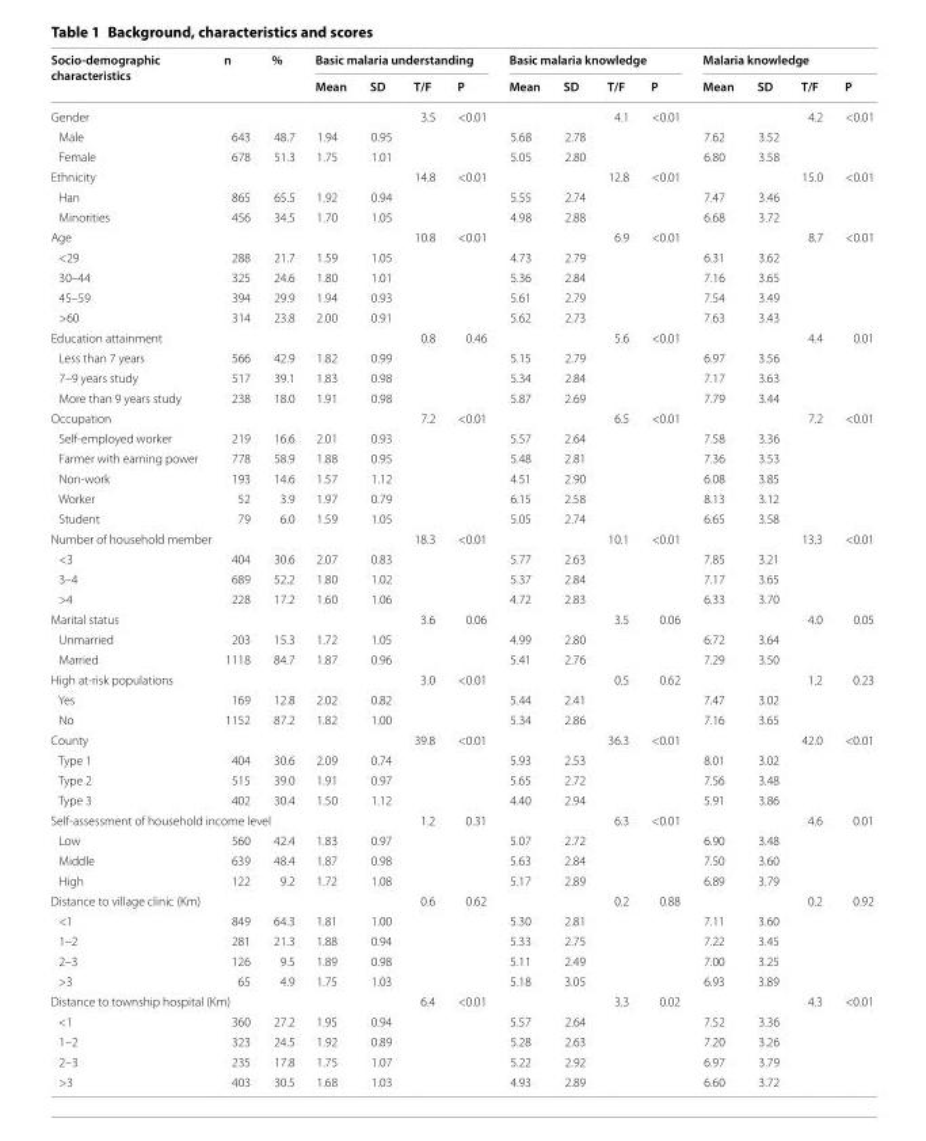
<table><thead><tr><td rowspan="2">Socio-demographic characteristics</td><td rowspan="2">n</td><td rowspan="2">%</td><td colspan="4">Basic malaria understanding</td><td colspan="4">Basic malaria knowledge</td><td colspan="4">Malaria knowledge</td></tr><tr><td>Mean</td><td>SD</td><td>T/F</td><td>P</td><td>Mean</td><td>SD</td><td>T/F</td><td>P</td><td>Mean</td><td>SD</td><td>T/F</td><td>P</td></tr></thead><tbody><tr><td>Gender</td><td></td><td></td><td></td><td></td><td>3.5</td><td>&lt;0.01</td><td></td><td></td><td>4.1</td><td>&lt;0.01</td><td></td><td></td><td>4.2</td><td>&lt;0.01</td></tr><tr><td>Male</td><td>643</td><td>48.7</td><td>1.94</td><td>0.95</td><td></td><td></td><td>5.68</td><td>2.78</td><td></td><td></td><td>7.62</td><td>3.52</td><td></td><td></td></tr><tr><td>Female</td><td>678</td><td>51.3</td><td>1.75</td><td>1.01</td><td></td><td></td><td>5.05</td><td>2.80</td><td></td><td></td><td>6.80</td><td>3.58</td><td></td><td></td></tr><tr><td>Ethnicity</td><td></td><td></td><td></td><td></td><td>14.8</td><td>&lt;0.01</td><td></td><td></td><td>12.8</td><td>&lt;0.01</td><td></td><td></td><td>15.0</td><td>&lt;0.01</td></tr><tr><td>Han</td><td>865</td><td>65.5</td><td>1.92</td><td>0.94</td><td></td><td></td><td>5.55</td><td>2.74</td><td></td><td></td><td>7.47</td><td>3.46</td><td></td><td></td></tr><tr><td>Minorities</td><td>456</td><td>34.5</td><td>1.70</td><td>1.05</td><td></td><td></td><td>4.98</td><td>2.88</td><td></td><td></td><td>6.68</td><td>3.72</td><td></td><td></td></tr><tr><td>Age</td><td></td><td></td><td></td><td></td><td>10.8</td><td>&lt;0.01</td><td></td><td></td><td>6.9</td><td>&lt;0.01</td><td></td><td></td><td>8.7</td><td>&lt;0.01</td></tr><tr><td>&lt;29</td><td>288</td><td>21.7</td><td>1.59</td><td>1.05</td><td></td><td></td><td>4.73</td><td>2.79</td><td></td><td></td><td>6.31</td><td>3.62</td><td></td><td></td></tr><tr><td>30–44</td><td>325</td><td>24.6</td><td>1.80</td><td>1.01</td><td></td><td></td><td>5.36</td><td>2.84</td><td></td><td></td><td>7.16</td><td>3.65</td><td></td><td></td></tr><tr><td>45–59</td><td>394</td><td>29.9</td><td>1.94</td><td>0.93</td><td></td><td></td><td>5.61</td><td>2.79</td><td></td><td></td><td>7.54</td><td>3.49</td><td></td><td></td></tr><tr><td>&gt;60</td><td>314</td><td>23.8</td><td>2.00</td><td>0.91</td><td></td><td></td><td>5.62</td><td>2.73</td><td></td><td></td><td>7.63</td><td>3.43</td><td></td><td></td></tr><tr><td>Education attainment</td><td></td><td></td><td></td><td></td><td>0.8</td><td>0.46</td><td></td><td></td><td>5.6</td><td>&lt;0.01</td><td></td><td></td><td>4.4</td><td>0.01</td></tr><tr><td>Less than 7 years</td><td>566</td><td>42.9</td><td>1.82</td><td>0.99</td><td></td><td></td><td>5.15</td><td>2.79</td><td></td><td></td><td>6.97</td><td>3.56</td><td></td><td></td></tr><tr><td>7–9 years study</td><td>517</td><td>39.1</td><td>1.83</td><td>0.98</td><td></td><td></td><td>5.34</td><td>2.84</td><td></td><td></td><td>7.17</td><td>3.63</td><td></td><td></td></tr><tr><td>More than 9 years study</td><td>238</td><td>18.0</td><td>1.91</td><td>0.98</td><td></td><td></td><td>5.87</td><td>2.69</td><td></td><td></td><td>7.79</td><td>3.44</td><td></td><td></td></tr><tr><td>Occupation</td><td></td><td></td><td></td><td></td><td>7.2</td><td>&lt;0.01</td><td></td><td></td><td>6.5</td><td>&lt;0.01</td><td></td><td></td><td>7.2</td><td>&lt;0.01</td></tr><tr><td>Self-employed worker</td><td>219</td><td>16.6</td><td>2.01</td><td>0.93</td><td></td><td></td><td>5.57</td><td>2.64</td><td></td><td></td><td>7.58</td><td>3.36</td><td></td><td></td></tr><tr><td>Farmer with earning power</td><td>778</td><td>58.9</td><td>1.88</td><td>0.95</td><td></td><td></td><td>5.48</td><td>2.81</td><td></td><td></td><td>7.36</td><td>3.53</td><td></td><td></td></tr><tr><td>Non-work</td><td>193</td><td>14.6</td><td>1.57</td><td>1.12</td><td></td><td></td><td>4.51</td><td>2.90</td><td></td><td></td><td>6.08</td><td>3.85</td><td></td><td></td></tr><tr><td>Worker</td><td>52</td><td>3.9</td><td>1.97</td><td>0.79</td><td></td><td></td><td>6.15</td><td>2.58</td><td></td><td></td><td>8.13</td><td>3.12</td><td></td><td></td></tr><tr><td>Student</td><td>79</td><td>6.0</td><td>1.59</td><td>1.05</td><td></td><td></td><td>5.05</td><td>2.74</td><td></td><td></td><td>6.65</td><td>3.58</td><td></td><td></td></tr><tr><td colspan="2">Number of household member</td><td></td><td></td><td></td><td>18.3</td><td>&lt;0.01</td><td></td><td></td><td>10.1</td><td>&lt;0.01</td><td></td><td></td><td>13.3</td><td>&lt;0.01</td></tr><tr><td>&lt;3</td><td>404</td><td>30.6</td><td>2.07</td><td>0.83</td><td></td><td></td><td>5.77</td><td>2.63</td><td></td><td></td><td>7.85</td><td>3.21</td><td></td><td></td></tr><tr><td>3–4</td><td>689</td><td>52.2</td><td>1.80</td><td>1.02</td><td></td><td></td><td>5.37</td><td>2.84</td><td></td><td></td><td>7.17</td><td>3.65</td><td></td><td></td></tr><tr><td>&gt;4</td><td>228</td><td>17.2</td><td>1.60</td><td>1.06</td><td></td><td></td><td>4.72</td><td>2.83</td><td></td><td></td><td>6.33</td><td>3.70</td><td></td><td></td></tr><tr><td>Marital status</td><td></td><td></td><td></td><td></td><td>3.6</td><td>0.06</td><td></td><td></td><td>3.5</td><td>0.06</td><td></td><td></td><td>4.0</td><td>0.05</td></tr><tr><td>Unmarried</td><td>203</td><td>15.3</td><td>1.72</td><td>1.05</td><td></td><td></td><td>4.99</td><td>2.80</td><td></td><td></td><td>6.72</td><td>3.64</td><td></td><td></td></tr><tr><td>Married</td><td>1118</td><td>84.7</td><td>1.87</td><td>0.96</td><td></td><td></td><td>5.41</td><td>2.76</td><td></td><td></td><td>7.29</td><td>3.50</td><td></td><td></td></tr><tr><td>High at-risk populations</td><td></td><td></td><td></td><td></td><td>3.0</td><td>&lt;0.01</td><td></td><td></td><td>0.5</td><td>0.62</td><td></td><td></td><td>1.2</td><td>0.23</td></tr><tr><td>Yes</td><td>169</td><td>12.8</td><td>2.02</td><td>0.82</td><td></td><td></td><td>5.44</td><td>2.41</td><td></td><td></td><td>7.47</td><td>3.02</td><td></td><td></td></tr><tr><td>No</td><td>1152</td><td>87.2</td><td>1.82</td><td>1.00</td><td></td><td></td><td>5.34</td><td>2.86</td><td></td><td></td><td>7.16</td><td>3.65</td><td></td><td></td></tr><tr><td>County</td><td></td><td></td><td></td><td></td><td>39.8</td><td>&lt;0.01</td><td></td><td></td><td>36.3</td><td>&lt;0.01</td><td></td><td></td><td>42.0</td><td>&lt;0.01</td></tr><tr><td>Type 1</td><td>404</td><td>30.6</td><td>2.09</td><td>0.74</td><td></td><td></td><td>5.93</td><td>2.53</td><td></td><td></td><td>8.01</td><td>3.02</td><td></td><td></td></tr><tr><td>Type 2</td><td>515</td><td>39.0</td><td>1.91</td><td>0.97</td><td></td><td></td><td>5.65</td><td>2.72</td><td></td><td></td><td>7.56</td><td>3.48</td><td></td><td></td></tr><tr><td>Type 3</td><td>402</td><td>30.4</td><td>1.50</td><td>1.12</td><td></td><td></td><td>4.40</td><td>2.94</td><td></td><td></td><td>5.91</td><td>3.86</td><td></td><td></td></tr><tr><td colspan="4">Self-assessment of household income level</td><td></td><td>1.2</td><td>0.31</td><td></td><td></td><td>6.3</td><td>&lt;0.01</td><td></td><td></td><td>4.6</td><td>0.01</td></tr><tr><td>Low</td><td>560</td><td>42.4</td><td>1.83</td><td>0.97</td><td></td><td></td><td>5.07</td><td>2.72</td><td></td><td></td><td>6.90</td><td>3.48</td><td></td><td></td></tr><tr><td>Middle</td><td>639</td><td>48.4</td><td>1.87</td><td>0.98</td><td></td><td></td><td>5.63</td><td>2.84</td><td></td><td></td><td>7.50</td><td>3.60</td><td></td><td></td></tr><tr><td>High</td><td>122</td><td>9.2</td><td>1.72</td><td>1.08</td><td></td><td></td><td>5.17</td><td>2.89</td><td></td><td></td><td>6.89</td><td>3.79</td><td></td><td></td></tr><tr><td colspan="3">Distance to village clinic (Km)</td><td></td><td></td><td>0.6</td><td>0.62</td><td></td><td></td><td>0.2</td><td>0.88</td><td></td><td></td><td>0.2</td><td>0.92</td></tr><tr><td>&lt;1</td><td>849</td><td>64.3</td><td>1.81</td><td>1.00</td><td></td><td></td><td>5.30</td><td>2.81</td><td></td><td></td><td>7.11</td><td>3.60</td><td></td><td></td></tr><tr><td>1–2</td><td>281</td><td>21.3</td><td>1.88</td><td>0.94</td><td></td><td></td><td>5.33</td><td>2.75</td><td></td><td></td><td>7.22</td><td>3.45</td><td></td><td></td></tr><tr><td>2–3</td><td>126</td><td>9.5</td><td>1.89</td><td>0.98</td><td></td><td></td><td>5.11</td><td>2.49</td><td></td><td></td><td>7.00</td><td>3.25</td><td></td><td></td></tr><tr><td>&gt;3</td><td>65</td><td>4.9</td><td>1.75</td><td>1.03</td><td></td><td></td><td>5.18</td><td>3.05</td><td></td><td></td><td>6.93</td><td>3.89</td><td></td><td></td></tr><tr><td colspan="4">Distance to township hospital (Km)</td><td></td><td>6.4</td><td>&lt;0.01</td><td></td><td></td><td>3.3</td><td>0.02</td><td></td><td></td><td>4.3</td><td>&lt;0.01</td></tr><tr><td>&lt;1</td><td>360</td><td>27.2</td><td>1.95</td><td>0.94</td><td></td><td></td><td>5.57</td><td>2.64</td><td></td><td></td><td>7.52</td><td>3.36</td><td></td><td></td></tr><tr><td>1–2</td><td>323</td><td>24.5</td><td>1.92</td><td>0.89</td><td></td><td></td><td>5.28</td><td>2.63</td><td></td><td></td><td>7.20</td><td>3.26</td><td></td><td></td></tr><tr><td>2–3</td><td>235</td><td>17.8</td><td>1.75</td><td>1.07</td><td></td><td></td><td>5.22</td><td>2.92</td><td></td><td></td><td>6.97</td><td>3.79</td><td></td><td></td></tr><tr><td>&gt;3</td><td>403</td><td>30.5</td><td>1.68</td><td>1.03</td><td></td><td></td><td>4.93</td><td>2.89</td><td></td><td></td><td>6.60</td><td>3.72</td><td></td><td></td></tr></tbody></table>